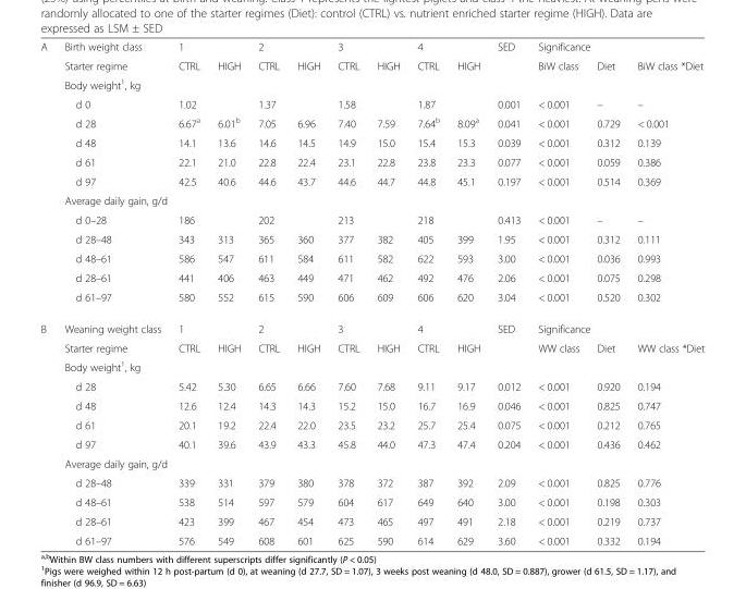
<table><tbody><tr><td rowspan="14">A</td><td>Birth weight class</td><td colspan="2">1</td><td colspan="2">2</td><td colspan="2">3</td><td colspan="2">4</td><td rowspan="2">SED</td><td colspan="3">Significance</td></tr><tr><td>Starter regime</td><td>CTRL</td><td>HIGH</td><td>CTRL</td><td>HIGH</td><td>CTRL</td><td>HIGH</td><td>CTRL</td><td>HIGH</td><td>BiW class</td><td>Diet</td><td>BiW class *Diet</td></tr><tr><td colspan="13">Body weight<sup>1</sup>, kg</td></tr><tr><td>d 0</td><td colspan="2">1.02</td><td colspan="2">1.37</td><td colspan="2">1.58</td><td colspan="2">1.87</td><td>0.001</td><td>&lt; 0.001</td><td>–</td><td>–</td></tr><tr><td>d 28</td><td>6.67<sup>a</sup></td><td>6.01<sup>b</sup></td><td>7.05</td><td>6.96</td><td>7.40</td><td>7.59</td><td>7.64<sup>b</sup></td><td>8.09<sup>a</sup></td><td>0.041</td><td>&lt; 0.001</td><td>0.729</td><td>&lt; 0.001</td></tr><tr><td>d 48</td><td>14.1</td><td>13.6</td><td>14.6</td><td>14.5</td><td>14.9</td><td>15.0</td><td>15.4</td><td>15.3</td><td>0.039</td><td>&lt; 0.001</td><td>0.312</td><td>0.139</td></tr><tr><td>d 61</td><td>22.1</td><td>21.0</td><td>22.8</td><td>22.4</td><td>23.1</td><td>22.8</td><td>23.8</td><td>23.3</td><td>0.077</td><td>&lt; 0.001</td><td>0.059</td><td>0.386</td></tr><tr><td>d 97</td><td>42.5</td><td>40.6</td><td>44.6</td><td>43.7</td><td>44.6</td><td>44.7</td><td>44.8</td><td>45.1</td><td>0.197</td><td>&lt; 0.001</td><td>0.514</td><td>0.369</td></tr><tr><td colspan="13">Average daily gain, g/d</td></tr><tr><td>d 0–28</td><td colspan="2">186</td><td colspan="2">202</td><td colspan="2">213</td><td colspan="2">218</td><td>0.413</td><td>&lt; 0.001</td><td>–</td><td>–</td></tr><tr><td>d 28–48</td><td>343</td><td>313</td><td>365</td><td>360</td><td>377</td><td>382</td><td>405</td><td>399</td><td>1.95</td><td>&lt; 0.001</td><td>0.312</td><td>0.111</td></tr><tr><td>d 48–61</td><td>586</td><td>547</td><td>611</td><td>584</td><td>611</td><td>582</td><td>622</td><td>593</td><td>3.00</td><td>&lt; 0.001</td><td>0.036</td><td>0.993</td></tr><tr><td>d 28–61</td><td>441</td><td>406</td><td>463</td><td>449</td><td>471</td><td>462</td><td>492</td><td>476</td><td>2.06</td><td>&lt; 0.001</td><td>0.075</td><td>0.298</td></tr><tr><td>d 61–97</td><td>580</td><td>552</td><td>615</td><td>590</td><td>606</td><td>609</td><td>606</td><td>620</td><td>3.04</td><td>&lt; 0.001</td><td>0.520</td><td>0.302</td></tr><tr><td rowspan="12">B</td><td>Weaning weight class</td><td colspan="2">1</td><td colspan="2">2</td><td colspan="2">3</td><td colspan="2">4</td><td rowspan="2">SED</td><td colspan="3">Significance</td></tr><tr><td>Starter regime</td><td>CTRL</td><td>HIGH</td><td>CTRL</td><td>HIGH</td><td>CTRL</td><td>HIGH</td><td>CTRL</td><td>HIGH</td><td>WW class</td><td>Diet</td><td>WW class *Diet</td></tr><tr><td colspan="13">Body weight<sup>1</sup>, kg</td></tr><tr><td>d 28</td><td>5.42</td><td>5.30</td><td>6.65</td><td>6.66</td><td>7.60</td><td>7.68</td><td>9.11</td><td>9.17</td><td>0.012</td><td>&lt; 0.001</td><td>0.920</td><td>0.194</td></tr><tr><td>d 48</td><td>12.6</td><td>12.4</td><td>14.3</td><td>14.3</td><td>15.2</td><td>15.0</td><td>16.7</td><td>16.9</td><td>0.046</td><td>&lt; 0.001</td><td>0.825</td><td>0.747</td></tr><tr><td>d 61</td><td>20.1</td><td>19.2</td><td>22.4</td><td>22.0</td><td>23.5</td><td>23.2</td><td>25.7</td><td>25.4</td><td>0.075</td><td>&lt; 0.001</td><td>0.212</td><td>0.765</td></tr><tr><td>d 97</td><td>40.1</td><td>39.6</td><td>43.9</td><td>43.3</td><td>45.8</td><td>44.0</td><td>47.3</td><td>47.4</td><td>0.204</td><td>&lt; 0.001</td><td>0.436</td><td>0.462</td></tr><tr><td colspan="13">Average daily gain, g/d</td></tr><tr><td>d 28–48</td><td>339</td><td>331</td><td>379</td><td>380</td><td>378</td><td>372</td><td>387</td><td>392</td><td>2.09</td><td>&lt; 0.001</td><td>0.825</td><td>0.776</td></tr><tr><td>d 48–61</td><td>538</td><td>514</td><td>597</td><td>579</td><td>604</td><td>617</td><td>649</td><td>640</td><td>3.00</td><td>&lt; 0.001</td><td>0.198</td><td>0.303</td></tr><tr><td>d 28–61</td><td>423</td><td>399</td><td>467</td><td>454</td><td>473</td><td>465</td><td>497</td><td>491</td><td>2.18</td><td>&lt; 0.001</td><td>0.219</td><td>0.737</td></tr><tr><td>d 61–97</td><td>576</td><td>549</td><td>608</td><td>601</td><td>625</td><td>590</td><td>614</td><td>629</td><td>3.60</td><td>&lt; 0.001</td><td>0.332</td><td>0.194</td></tr></tbody></table>